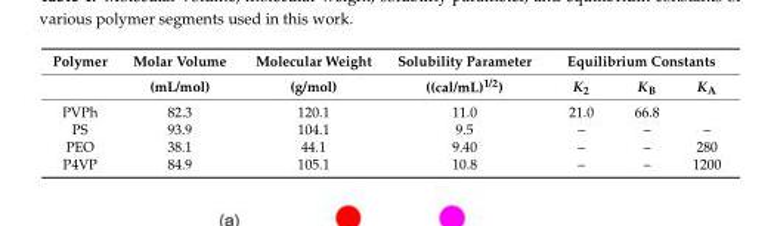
<table><thead><tr><td rowspan="2">Polymer</td><td rowspan="2">Molar Volume (mL/mol)</td><td rowspan="2">Molecular Weight (g/mol)</td><td rowspan="2">Solubility Parameter ((cal/mL)1/2)</td><td colspan="3">Equilibrium Constants</td></tr><tr><td>K2</td><td>KB</td><td>KA</td></tr></thead><tbody><tr><td>PVPh</td><td>82.3</td><td>120.1</td><td>11.0</td><td>21.0</td><td>66.8</td><td></td></tr><tr><td>PS</td><td>93.9</td><td>104.1</td><td>9.5</td><td>–</td><td>–</td><td>–</td></tr><tr><td>PEO</td><td>38.1</td><td>44.1</td><td>9.40</td><td>–</td><td>–</td><td>280</td></tr><tr><td>P4VP</td><td>84.9</td><td>105.1</td><td>10.8</td><td>–</td><td>–</td><td>1200</td></tr></tbody></table>